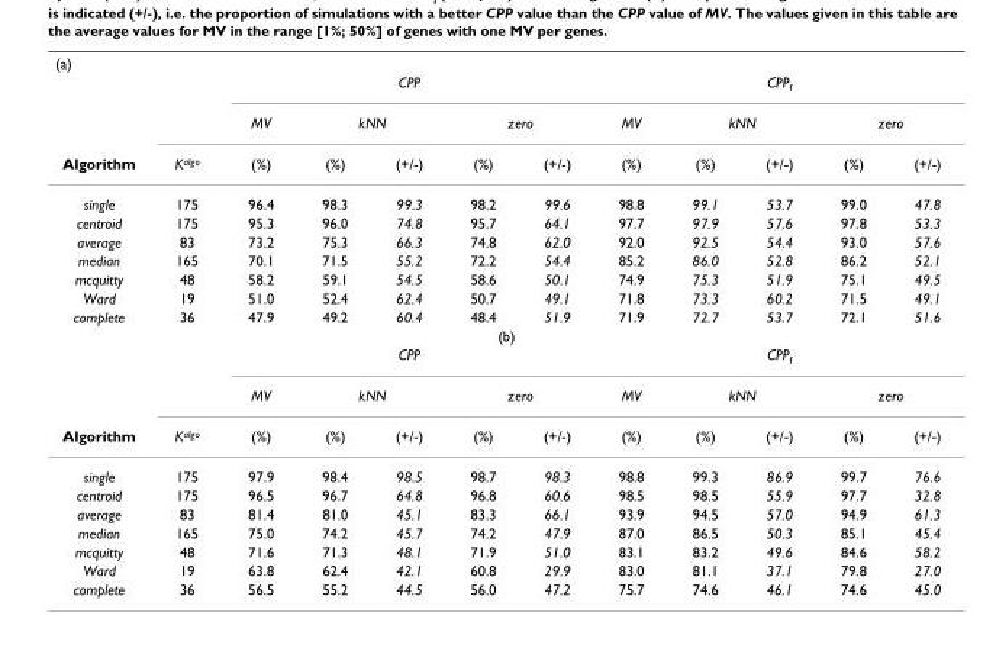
<table><thead><tr><td colspan="12">(a)</td></tr><tr><td rowspan="3">Algorithm</td><td rowspan="3">Kalgo</td><td colspan="5">CPP</td><td colspan="5">CPPf</td></tr><tr><td rowspan="2">MV (%)</td><td colspan="2">kNN</td><td colspan="2">zero</td><td rowspan="2">MV (%)</td><td colspan="2">kNN</td><td colspan="2">zero</td></tr><tr><td>(%)</td><td>(+/-)</td><td>(%)</td><td>(+/-)</td><td>(%)</td><td>(+/-)</td><td>(%)</td><td>(+/-)</td></tr></thead><tbody><tr><td>single</td><td>175</td><td>96.4</td><td>98.3</td><td>99.3</td><td>98.2</td><td>99.6</td><td>98.8</td><td>99.1</td><td>53.7</td><td>99.0</td><td>47.8</td></tr><tr><td>centroid</td><td>175</td><td>95.3</td><td>96.0</td><td>74.8</td><td>95.7</td><td>64.1</td><td>97.7</td><td>97.9</td><td>57.6</td><td>97.8</td><td>53.3</td></tr><tr><td>average</td><td>83</td><td>73.2</td><td>75.3</td><td>66.3</td><td>74.8</td><td>62.0</td><td>92.0</td><td>92.5</td><td>54.4</td><td>93.0</td><td>57.6</td></tr><tr><td>median</td><td>165</td><td>70.1</td><td>71.5</td><td>55.2</td><td>72.2</td><td>54.4</td><td>85.2</td><td>86.0</td><td>52.8</td><td>86.2</td><td>52.1</td></tr><tr><td>mcquitty</td><td>48</td><td>58.2</td><td>59.1</td><td>54.5</td><td>58.6</td><td>50.1</td><td>74.9</td><td>75.3</td><td>51.9</td><td>75.1</td><td>49.5</td></tr><tr><td>Ward</td><td>19</td><td>51.0</td><td>52.4</td><td>62.4</td><td>50.7</td><td>49.1</td><td>71.8</td><td>73.3</td><td>60.2</td><td>71.5</td><td>49.1</td></tr><tr><td>complete</td><td>36</td><td>47.9</td><td>49.2</td><td>60.4</td><td>48.4</td><td>51.9</td><td>71.9</td><td>72.7</td><td>53.7</td><td>72.1</td><td>51.6</td></tr><tr><td colspan="12">(b)</td></tr><tr><td></td><td></td><td colspan="5">CPP</td><td colspan="5">CPPf</td></tr><tr><td></td><td></td><td>MV</td><td colspan="2">kNN</td><td colspan="2">zero</td><td>MV</td><td colspan="2">kNN</td><td colspan="2">zero</td></tr><tr><td>Algorithm</td><td>Kalgo</td><td>(%)</td><td>(%)</td><td>(+/-)</td><td>(%)</td><td>(+/-)</td><td>(%)</td><td>(%)</td><td>(+/-)</td><td>(%)</td><td>(+/-)</td></tr><tr><td>single</td><td>175</td><td>97.9</td><td>98.4</td><td>98.5</td><td>98.7</td><td>98.3</td><td>98.8</td><td>99.3</td><td>86.9</td><td>99.7</td><td>76.6</td></tr><tr><td>centroid</td><td>175</td><td>96.5</td><td>96.7</td><td>64.8</td><td>96.8</td><td>60.6</td><td>98.5</td><td>98.5</td><td>55.9</td><td>97.7</td><td>32.8</td></tr><tr><td>average</td><td>83</td><td>81.4</td><td>81.0</td><td>45.1</td><td>83.3</td><td>66.1</td><td>93.9</td><td>94.5</td><td>57.0</td><td>94.9</td><td>61.3</td></tr><tr><td>median</td><td>165</td><td>75.0</td><td>74.2</td><td>45.7</td><td>74.2</td><td>47.9</td><td>87.0</td><td>86.5</td><td>50.3</td><td>85.1</td><td>45.4</td></tr><tr><td>mcquitty</td><td>48</td><td>71.6</td><td>71.3</td><td>48.1</td><td>71.9</td><td>51.0</td><td>83.1</td><td>83.2</td><td>49.6</td><td>84.6</td><td>58.2</td></tr><tr><td>Ward</td><td>19</td><td>63.8</td><td>62.4</td><td>42.1</td><td>60.8</td><td>29.9</td><td>83.0</td><td>81.1</td><td>37.1</td><td>79.8</td><td>27.0</td></tr><tr><td>complete</td><td>36</td><td>56.5</td><td>55.2</td><td>44.5</td><td>56.0</td><td>47.2</td><td>75.7</td><td>74.6</td><td>46.1</td><td>74.6</td><td>45.0</td></tr></tbody></table>